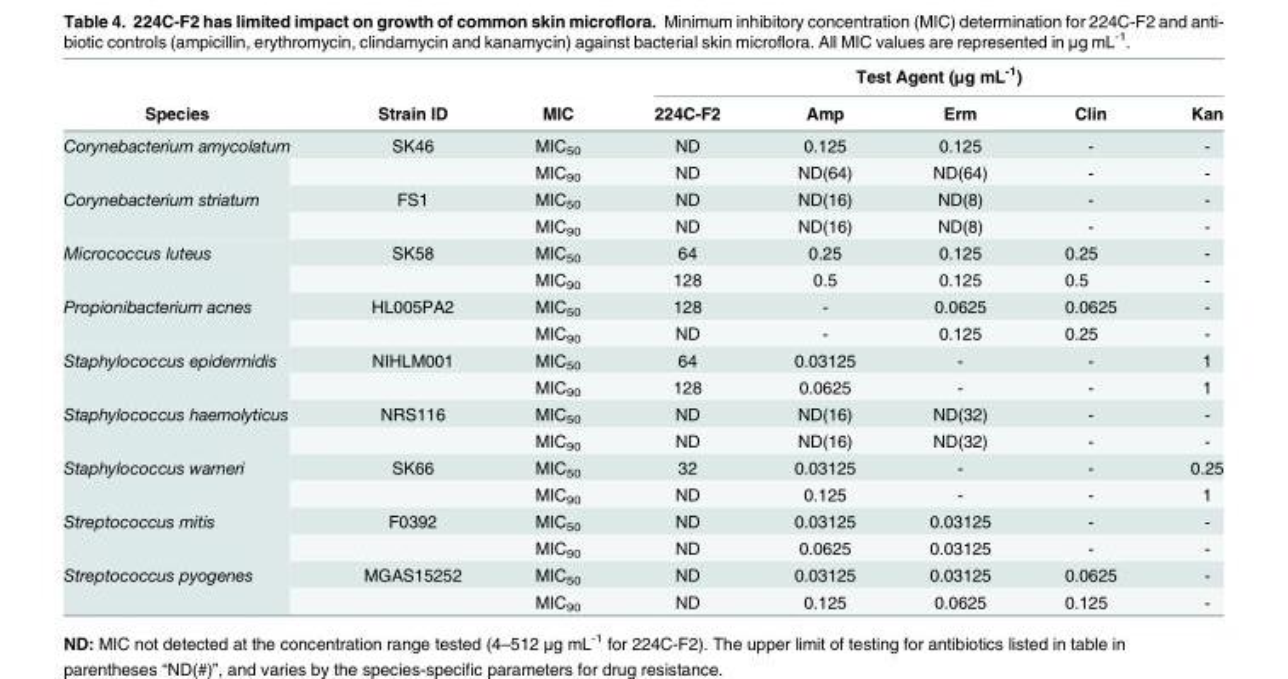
<table><thead><tr><td rowspan="2">Species</td><td rowspan="2">Strain ID</td><td rowspan="2">MIC</td><td colspan="5">Test Agent (μg mL<sup>-1</sup>)</td></tr><tr><td>224C-F2</td><td>Amp</td><td>Erm</td><td>Clin</td><td>Kan</td></tr></thead><tbody><tr><td rowspan="2">Corynebacterium amycolatum</td><td>SK46</td><td>MIC<sub>50</sub></td><td>ND</td><td>0.125</td><td>0.125</td><td>-</td><td>-</td></tr><tr><td></td><td>MIC<sub>90</sub></td><td>ND</td><td>ND(64)</td><td>ND(64)</td><td>-</td><td>-</td></tr><tr><td rowspan="2">Corynebacterium striatum</td><td>FS1</td><td>MIC<sub>50</sub></td><td>ND</td><td>ND(16)</td><td>ND(8)</td><td>-</td><td>-</td></tr><tr><td></td><td>MIC<sub>90</sub></td><td>ND</td><td>ND(16)</td><td>ND(8)</td><td>-</td><td>-</td></tr><tr><td rowspan="2">Micrococcus luteus</td><td>SK58</td><td>MIC<sub>50</sub></td><td>64</td><td>0.25</td><td>0.125</td><td>0.25</td><td>-</td></tr><tr><td></td><td>MIC<sub>90</sub></td><td>128</td><td>0.5</td><td>0.125</td><td>0.5</td><td>-</td></tr><tr><td rowspan="2">Propionibacterium acnes</td><td>HL005PA2</td><td>MIC<sub>50</sub></td><td>128</td><td>-</td><td>0.0625</td><td>0.0625</td><td>-</td></tr><tr><td></td><td>MIC<sub>90</sub></td><td>ND</td><td>-</td><td>0.125</td><td>0.25</td><td>-</td></tr><tr><td rowspan="2">Staphylococcus epidermidis</td><td>NIHLM001</td><td>MIC<sub>50</sub></td><td>64</td><td>0.03125</td><td>-</td><td>-</td><td>1</td></tr><tr><td></td><td>MIC<sub>90</sub></td><td>128</td><td>0.0625</td><td>-</td><td>-</td><td>1</td></tr><tr><td rowspan="2">Staphylococcus haemolyticus</td><td>NRS116</td><td>MIC<sub>50</sub></td><td>ND</td><td>ND(16)</td><td>ND(32)</td><td>-</td><td>-</td></tr><tr><td></td><td>MIC<sub>90</sub></td><td>ND</td><td>ND(16)</td><td>ND(32)</td><td>-</td><td>-</td></tr><tr><td rowspan="2">Staphylococcus warneri</td><td>SK66</td><td>MIC<sub>50</sub></td><td>32</td><td>0.03125</td><td>-</td><td>-</td><td>0.25</td></tr><tr><td></td><td>MIC<sub>90</sub></td><td>ND</td><td>0.125</td><td>-</td><td>-</td><td>1</td></tr><tr><td rowspan="2">Streptococcus mitis</td><td>F0392</td><td>MIC<sub>50</sub></td><td>ND</td><td>0.03125</td><td>0.03125</td><td>-</td><td>-</td></tr><tr><td></td><td>MIC<sub>90</sub></td><td>ND</td><td>0.0625</td><td>0.03125</td><td>-</td><td>-</td></tr><tr><td rowspan="2">Streptococcus pyogenes</td><td>MGAS15252</td><td>MIC<sub>50</sub></td><td>ND</td><td>0.03125</td><td>0.03125</td><td>0.0625</td><td>-</td></tr><tr><td></td><td>MIC<sub>90</sub></td><td>ND</td><td>0.125</td><td>0.0625</td><td>0.125</td><td>-</td></tr></tbody></table>